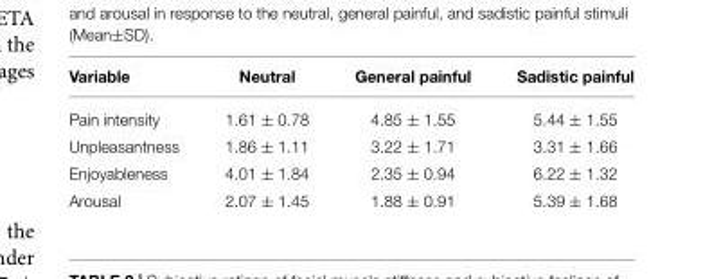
<table><thead><tr><td>Variable</td><td>Neutral</td><td>General painful</td><td>Sadistic painful</td></tr></thead><tbody><tr><td>Pain intensity</td><td>1.61 ± 0.78</td><td>4.85 ± 1.55</td><td>5.44 ± 1.55</td></tr><tr><td>Unpleasantness</td><td>1.86 ± 1.11</td><td>3.22 ± 1.71</td><td>3.31 ± 1.66</td></tr><tr><td>Enjoyableness</td><td>4.01 ± 1.84</td><td>2.35 ± 0.94</td><td>6.22 ± 1.32</td></tr><tr><td>Arousal</td><td>2.07 ± 1.45</td><td>1.88 ± 0.91</td><td>5.39 ± 1.68</td></tr></tbody></table>